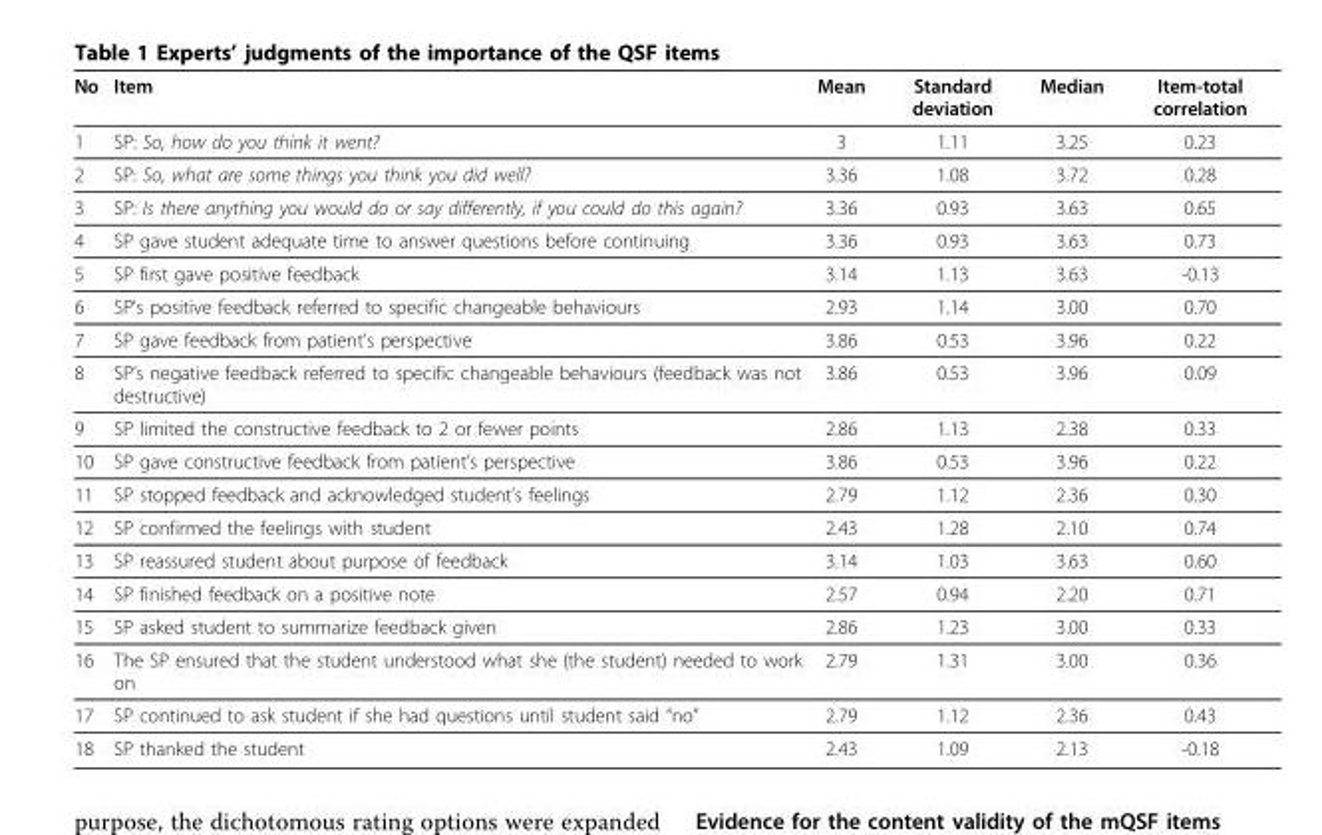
<table><thead><tr><td>No</td><td>Item</td><td>Mean</td><td>Standard deviation</td><td>Median</td><td>Item-total correlation</td></tr></thead><tbody><tr><td>1</td><td>SP: So, how do you think it went?</td><td>3</td><td>1.11</td><td>3.25</td><td>0.23</td></tr><tr><td>2</td><td>SP: So, what are some things you think you did well?</td><td>3.36</td><td>1.08</td><td>3.72</td><td>0.28</td></tr><tr><td>3</td><td>SP: Is there anything you would do or say differently, if you could do this again?</td><td>3.36</td><td>0.93</td><td>3.63</td><td>0.65</td></tr><tr><td>4</td><td>SP gave student adequate time to answer questions before continuing</td><td>3.36</td><td>0.93</td><td>3.63</td><td>0.73</td></tr><tr><td>5</td><td>SP first gave positive feedback</td><td>3.14</td><td>1.13</td><td>3.63</td><td>-0.13</td></tr><tr><td>6</td><td>SP’s positive feedback referred to specific changeable behaviours</td><td>2.93</td><td>1.14</td><td>3.00</td><td>0.70</td></tr><tr><td>7</td><td>SP gave feedback from patient’s perspective</td><td>3.86</td><td>0.53</td><td>3.96</td><td>0.22</td></tr><tr><td>8</td><td>SP’s negative feedback referred to specific changeable behaviours (feedback was not destructive)</td><td>3.86</td><td>0.53</td><td>3.96</td><td>0.09</td></tr><tr><td>9</td><td>SP limited the constructive feedback to 2 or fewer points</td><td>2.86</td><td>1.13</td><td>2.38</td><td>0.33</td></tr><tr><td>10</td><td>SP gave constructive feedback from patient’s perspective</td><td>3.86</td><td>0.53</td><td>3.96</td><td>0.22</td></tr><tr><td>11</td><td>SP stopped feedback and acknowledged student’s feelings</td><td>2.79</td><td>1.12</td><td>2.36</td><td>0.30</td></tr><tr><td>12</td><td>SP confirmed the feelings with student</td><td>2.43</td><td>1.28</td><td>2.10</td><td>0.74</td></tr><tr><td>13</td><td>SP reassured student about purpose of feedback</td><td>3.14</td><td>1.03</td><td>3.63</td><td>0.60</td></tr><tr><td>14</td><td>SP finished feedback on a positive note</td><td>2.57</td><td>0.94</td><td>2.20</td><td>0.71</td></tr><tr><td>15</td><td>SP asked student to summarize feedback given</td><td>2.86</td><td>1.23</td><td>3.00</td><td>0.33</td></tr><tr><td>16</td><td>The SP ensured that the student understood what she (the student) needed to work on</td><td>2.79</td><td>1.31</td><td>3.00</td><td>0.36</td></tr><tr><td>17</td><td>SP continued to ask student if she had questions until student said “no”</td><td>2.79</td><td>1.12</td><td>2.36</td><td>0.43</td></tr><tr><td>18</td><td>SP thanked the student</td><td>2.43</td><td>1.09</td><td>2.13</td><td>-0.18</td></tr></tbody></table>